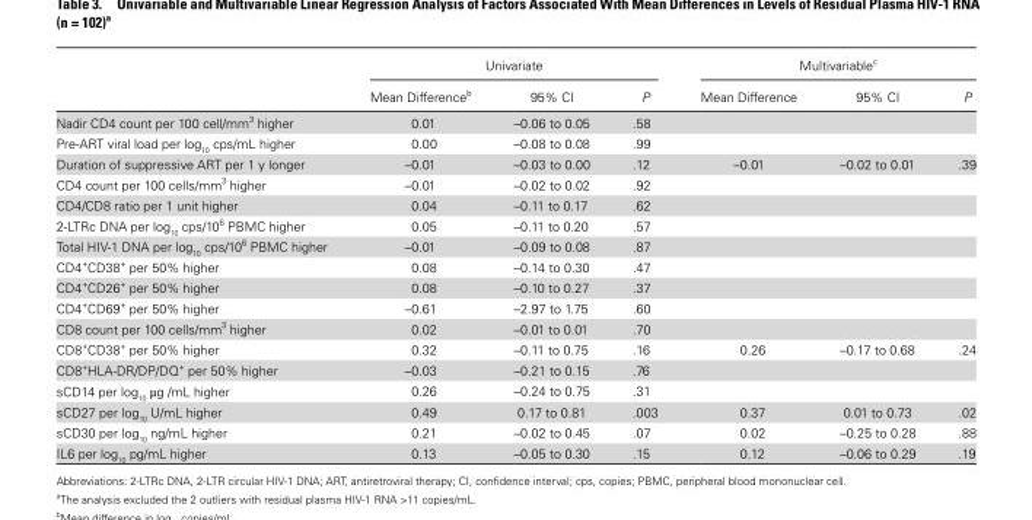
<table><thead><tr><td rowspan="2"></td><td colspan="3">Univariate</td><td colspan="3">Multivariable<sup>c</sup></td></tr><tr><td>Mean Difference<sup>b</sup></td><td>95% CI</td><td>P</td><td>Mean Difference</td><td>95% CI</td><td>P</td></tr></thead><tbody><tr><td>Nadir CD4 count per 100 cell/mm<sup>3</sup> higher</td><td>0.01</td><td>–0.06 to 0.05</td><td>.58</td><td></td><td></td><td></td></tr><tr><td>Pre-ART viral load per log<sub>10</sub> cps/mL higher</td><td>0.00</td><td>–0.08 to 0.08</td><td>.99</td><td></td><td></td><td></td></tr><tr><td>Duration of suppressive ART per 1 y longer</td><td>–0.01</td><td>–0.03 to 0.00</td><td>.12</td><td>–0.01</td><td>–0.02 to 0.01</td><td>.39</td></tr><tr><td>CD4 count per 100 cells/mm<sup>3</sup> higher</td><td>–0.01</td><td>–0.02 to 0.02</td><td>.92</td><td></td><td></td><td></td></tr><tr><td>CD4/CD8 ratio per 1 unit higher</td><td>0.04</td><td>–0.11 to 0.17</td><td>.62</td><td></td><td></td><td></td></tr><tr><td>2-LTRc DNA per log<sub>10</sub> cps/10<sup>6</sup> PBMC higher</td><td>0.05</td><td>–0.11 to 0.20</td><td>.57</td><td></td><td></td><td></td></tr><tr><td>Total HIV-1 DNA per log<sub>10</sub> cps/10<sup>6</sup> PBMC higher</td><td>–0.01</td><td>–0.09 to 0.08</td><td>.87</td><td></td><td></td><td></td></tr><tr><td>CD4<sup>+</sup>CD38<sup>+</sup> per 50% higher</td><td>0.08</td><td>–0.14 to 0.30</td><td>.47</td><td></td><td></td><td></td></tr><tr><td>CD4<sup>+</sup>CD26<sup>+</sup> per 50% higher</td><td>0.08</td><td>–0.10 to 0.27</td><td>.37</td><td></td><td></td><td></td></tr><tr><td>CD4<sup>+</sup>CD69<sup>+</sup> per 50% higher</td><td>–0.61</td><td>–2.97 to 1.75</td><td>.60</td><td></td><td></td><td></td></tr><tr><td>CD8 count per 100 cells/mm<sup>3</sup> higher</td><td>0.02</td><td>–0.01 to 0.01</td><td>.70</td><td></td><td></td><td></td></tr><tr><td>CD8<sup>+</sup>CD38<sup>+</sup> per 50% higher</td><td>0.32</td><td>–0.11 to 0.75</td><td>.16</td><td>0.26</td><td>–0.17 to 0.68</td><td>.24</td></tr><tr><td>CD8<sup>+</sup>HLA-DR/DP/DQ<sup>+</sup> per 50% higher</td><td>–0.03</td><td>–0.21 to 0.15</td><td>.76</td><td></td><td></td><td></td></tr><tr><td>sCD14 per log<sub>10</sub> µg /mL higher</td><td>0.26</td><td>–0.24 to 0.75</td><td>.31</td><td></td><td></td><td></td></tr><tr><td>sCD27 per log<sub>10</sub> U/mL higher</td><td>0.49</td><td>0.17 to 0.81</td><td>.003</td><td>0.37</td><td>0.01 to 0.73</td><td>.02</td></tr><tr><td>sCD30 per log<sub>10</sub> ng/mL higher</td><td>0.21</td><td>–0.02 to 0.45</td><td>.07</td><td>0.02</td><td>–0.25 to 0.28</td><td>.88</td></tr><tr><td>IL6 per log<sub>10</sub> pg/mL higher</td><td>0.13</td><td>–0.05 to 0.30</td><td>.15</td><td>0.12</td><td>–0.06 to 0.29</td><td>.19</td></tr></tbody></table>